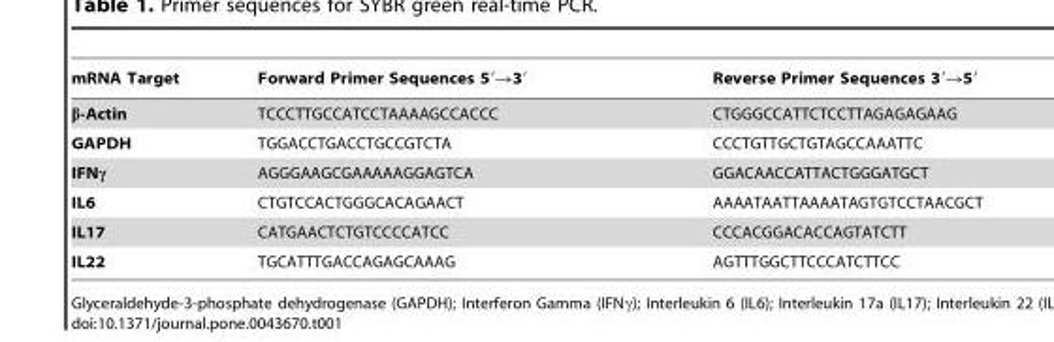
<table><thead><tr><td>mRNA Target</td><td>Forward Primer Sequences 5′→3′</td><td>Reverse Primer Sequences 3′→5′</td></tr></thead><tbody><tr><td>β-Actin</td><td>TCCCTTGCCATCCTAAAAGCCACCC</td><td>CTGGGCCATTCTCCTTAGAGAGAAG</td></tr><tr><td>GAPDH</td><td>TGGACCTGACCTGCCGTCTA</td><td>CCCTGTTGCTGTAGCCAAATTC</td></tr><tr><td>IFNγ</td><td>AGGGAAGCGAAAAAGGAGTCA</td><td>GGACAACCATTACTGGGATGCT</td></tr><tr><td>IL6</td><td>CTGTCCACTGGGCACAGAACT</td><td>AAAATAATTAAAATAGTGTCCTAACGCT</td></tr><tr><td>IL17</td><td>CATGAACTCTGTCCCCATCC</td><td>CCCACGGACACCAGTATCTT</td></tr><tr><td>IL22</td><td>TGCATTTGACCAGAGCAAAG</td><td>AGTTTGGCTTCCCATCTTCC</td></tr></tbody></table>